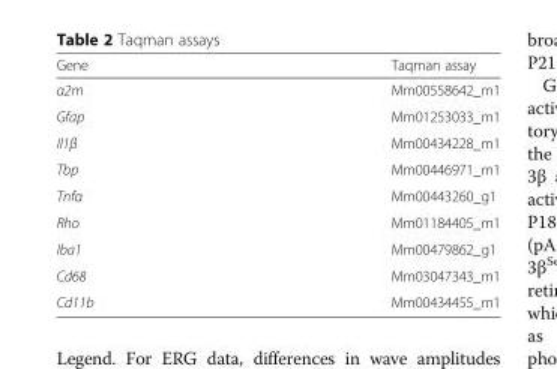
<table><thead><tr><td>Gene</td><td>Taqman assay</td></tr></thead><tbody><tr><td>α2m</td><td>Mm00558642_m1</td></tr><tr><td>Gfap</td><td>Mm01253033_m1</td></tr><tr><td>Il1β</td><td>Mm00434228_m1</td></tr><tr><td>Tbp</td><td>Mm00446971_m1</td></tr><tr><td>Tnfα</td><td>Mm00443260_g1</td></tr><tr><td>Rho</td><td>Mm01184405_m1</td></tr><tr><td>Iba1</td><td>Mm00479862_g1</td></tr><tr><td>Cd68</td><td>Mm03047343_m1</td></tr><tr><td>Cd11b</td><td>Mm00434455_m1</td></tr></tbody></table>